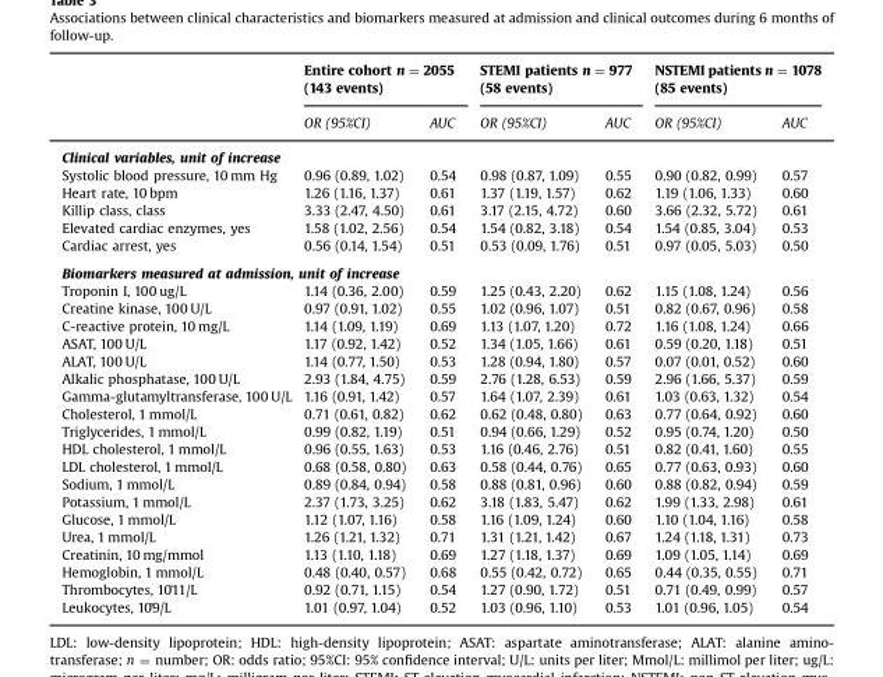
<table><thead><tr><td rowspan="2"></td><td colspan="2">Entire cohort n = 2055 (143 events)</td><td colspan="2">STEMI patients n = 977 (58 events)</td><td colspan="2">NSTEMI patients n = 1078 (85 events)</td></tr><tr><td>OR (95%CI)</td><td>AUC</td><td>OR (95%CI)</td><td>AUC</td><td>OR (95%CI)</td><td>AUC</td></tr></thead><tbody><tr><td colspan="7">Clinical variables, unit of increase</td></tr><tr><td>Systolic blood pressure, 10 mm Hg</td><td>0.96 (0.89, 1.02)</td><td>0.54</td><td>0.98 (0.87, 1.09)</td><td>0.55</td><td>0.90 (0.82, 0.99)</td><td>0.57</td></tr><tr><td>Heart rate, 10 bpm</td><td>1.26 (1.16, 1.37)</td><td>0.61</td><td>1.37 (1.19, 1.57)</td><td>0.62</td><td>1.19 (1.06, 1.33)</td><td>0.60</td></tr><tr><td>Killip class, class</td><td>3.33 (2.47, 4.50)</td><td>0.61</td><td>3.17 (2.15, 4.72)</td><td>0.60</td><td>3.66 (2.32, 5.72)</td><td>0.61</td></tr><tr><td>Elevated cardiac enzymes, yes</td><td>1.58 (1.02, 2.56)</td><td>0.54</td><td>1.54 (0.82, 3.18)</td><td>0.54</td><td>1.54 (0.85, 3.04)</td><td>0.53</td></tr><tr><td>Cardiac arrest, yes</td><td>0.56 (0.14, 1.54)</td><td>0.51</td><td>0.53 (0.09, 1.76)</td><td>0.51</td><td>0.97 (0.05, 5.03)</td><td>0.50</td></tr><tr><td colspan="7">Biomarkers measured at admission, unit of increase</td></tr><tr><td>Troponin I, 100 ug/L</td><td>1.14 (0.36, 2.00)</td><td>0.59</td><td>1.25 (0.43, 2.20)</td><td>0.62</td><td>1.15 (1.08, 1.24)</td><td>0.56</td></tr><tr><td>Creatine kinase, 100 U/L</td><td>0.97 (0.91, 1.02)</td><td>0.55</td><td>1.02 (0.96, 1.07)</td><td>0.51</td><td>0.82 (0.67, 0.96)</td><td>0.58</td></tr><tr><td>C-reactive protein, 10 mg/L</td><td>1.14 (1.09, 1.19)</td><td>0.69</td><td>1.13 (1.07, 1.20)</td><td>0.72</td><td>1.16 (1.08, 1.24)</td><td>0.66</td></tr><tr><td>ASAT, 100 U/L</td><td>1.17 (0.92, 1.42)</td><td>0.52</td><td>1.34 (1.05, 1.66)</td><td>0.61</td><td>0.59 (0.20, 1.18)</td><td>0.51</td></tr><tr><td>ALAT, 100 U/L</td><td>1.14 (0.77, 1.50)</td><td>0.53</td><td>1.28 (0.94, 1.80)</td><td>0.57</td><td>0.07 (0.01, 0.52)</td><td>0.60</td></tr><tr><td>Alkalic phosphatase, 100 U/L</td><td>2.93 (1.84, 4.75)</td><td>0.59</td><td>2.76 (1.28, 6.53)</td><td>0.59</td><td>2.96 (1.66, 5.37)</td><td>0.59</td></tr><tr><td>Gamma-glutamyltransferase, 100 U/L</td><td>1.16 (0.91, 1.42)</td><td>0.57</td><td>1.64 (1.07, 2.39)</td><td>0.61</td><td>1.03 (0.63, 1.32)</td><td>0.54</td></tr><tr><td>Cholesterol, 1 mmol/L</td><td>0.71 (0.61, 0.82)</td><td>0.62</td><td>0.62 (0.48, 0.80)</td><td>0.63</td><td>0.77 (0.64, 0.92)</td><td>0.60</td></tr><tr><td>Triglycerides, 1 mmol/L</td><td>0.99 (0.82, 1.19)</td><td>0.51</td><td>0.94 (0.66, 1.29)</td><td>0.52</td><td>0.95 (0.74, 1.20)</td><td>0.50</td></tr><tr><td>HDL cholesterol, 1 mmol/L</td><td>0.96 (0.55, 1.63)</td><td>0.53</td><td>1.16 (0.46, 2.76)</td><td>0.51</td><td>0.82 (0.41, 1.60)</td><td>0.55</td></tr><tr><td>LDL cholesterol, 1 mmol/L</td><td>0.68 (0.58, 0.80)</td><td>0.63</td><td>0.58 (0.44, 0.76)</td><td>0.65</td><td>0.77 (0.63, 0.93)</td><td>0.60</td></tr><tr><td>Sodium, 1 mmol/L</td><td>0.89 (0.84, 0.94)</td><td>0.58</td><td>0.88 (0.81, 0.96)</td><td>0.60</td><td>0.88 (0.82, 0.94)</td><td>0.59</td></tr><tr><td>Potassium, 1 mmol/L</td><td>2.37 (1.73, 3.25)</td><td>0.62</td><td>3.18 (1.83, 5.47)</td><td>0.62</td><td>1.99 (1.33, 2.98)</td><td>0.61</td></tr><tr><td>Glucose, 1 mmol/L</td><td>1.12 (1.07, 1.16)</td><td>0.58</td><td>1.16 (1.09, 1.24)</td><td>0.60</td><td>1.10 (1.04, 1.16)</td><td>0.58</td></tr><tr><td>Urea, 1 mmol/L</td><td>1.26 (1.21, 1.32)</td><td>0.71</td><td>1.31 (1.21, 1.42)</td><td>0.67</td><td>1.24 (1.18, 1.31)</td><td>0.73</td></tr><tr><td>Creatinin, 10 mg/mmol</td><td>1.13 (1.10, 1.18)</td><td>0.69</td><td>1.27 (1.18, 1.37)</td><td>0.69</td><td>1.09 (1.05, 1.14)</td><td>0.69</td></tr><tr><td>Hemoglobin, 1 mmol/L</td><td>0.48 (0.40, 0.57)</td><td>0.68</td><td>0.55 (0.42, 0.72)</td><td>0.65</td><td>0.44 (0.35, 0.55)</td><td>0.71</td></tr><tr><td>Thrombocytes, 10^11/L</td><td>0.92 (0.71, 1.15)</td><td>0.54</td><td>1.27 (0.90, 1.72)</td><td>0.51</td><td>0.71 (0.49, 0.99)</td><td>0.57</td></tr><tr><td>Leukocytes, 10^9/L</td><td>1.01 (0.97, 1.04)</td><td>0.52</td><td>1.03 (0.96, 1.10)</td><td>0.53</td><td>1.01 (0.96, 1.05)</td><td>0.54</td></tr></tbody></table>